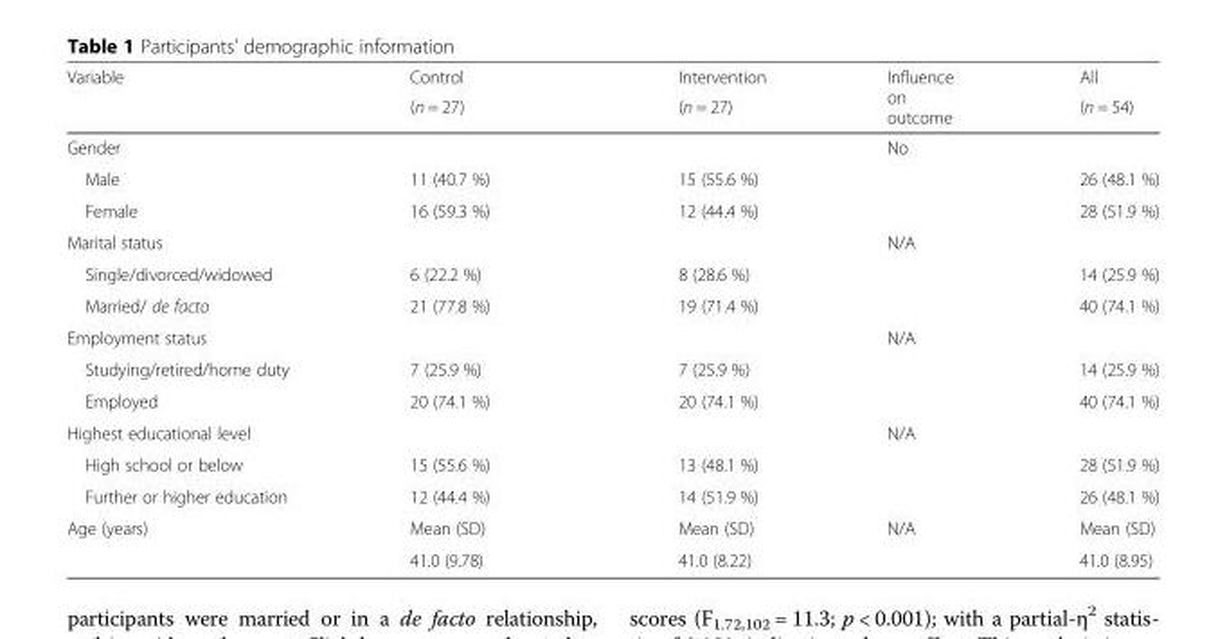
<table><thead><tr><td rowspan="2">Variable</td><td rowspan="2">Control (n = 27)</td><td rowspan="2">Intervention (n = 27)</td><td rowspan="2">Influence on outcome</td><td rowspan="2">All (n = 54)</td></tr><tr></tr></thead><tbody><tr><td>Gender</td><td></td><td></td><td>No</td><td></td></tr><tr><td>Male</td><td>11 (40.7 %)</td><td>15 (55.6 %)</td><td></td><td>26 (48.1 %)</td></tr><tr><td>Female</td><td>16 (59.3 %)</td><td>12 (44.4 %)</td><td></td><td>28 (51.9 %)</td></tr><tr><td>Marital status</td><td></td><td></td><td>N/A</td><td></td></tr><tr><td>Single/divorced/widowed</td><td>6 (22.2 %)</td><td>8 (28.6 %)</td><td></td><td>14 (25.9 %)</td></tr><tr><td>Married/ de facto</td><td>21 (77.8 %)</td><td>19 (71.4 %)</td><td></td><td>40 (74.1 %)</td></tr><tr><td>Employment status</td><td></td><td></td><td>N/A</td><td></td></tr><tr><td>Studying/retired/home duty</td><td>7 (25.9 %)</td><td>7 (25.9 %)</td><td></td><td>14 (25.9 %)</td></tr><tr><td>Employed</td><td>20 (74.1 %)</td><td>20 (74.1 %)</td><td></td><td>40 (74.1 %)</td></tr><tr><td>Highest educational level</td><td></td><td></td><td>N/A</td><td></td></tr><tr><td>High school or below</td><td>15 (55.6 %)</td><td>13 (48.1 %)</td><td></td><td>28 (51.9 %)</td></tr><tr><td>Further or higher education</td><td>12 (44.4 %)</td><td>14 (51.9 %)</td><td></td><td>26 (48.1 %)</td></tr><tr><td rowspan="2">Age (years)</td><td>Mean (SD)</td><td>Mean (SD)</td><td>N/A</td><td>Mean (SD)</td></tr><tr><td>41.0 (9.78)</td><td>41.0 (8.22)</td><td></td><td>41.0 (8.95)</td></tr></tbody></table>